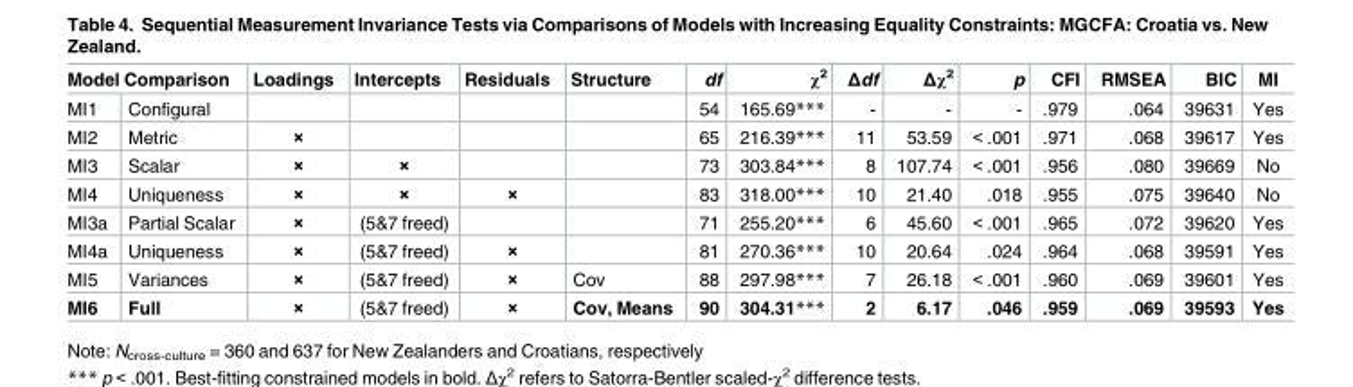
<table><thead><tr><td colspan="2">Model Comparison</td><td rowspan="2">Loadings</td><td rowspan="2">Intercepts</td><td rowspan="2">Residuals</td><td rowspan="2">Structure</td><td rowspan="2">df 54</td><td rowspan="2">χ<sup>2</sup> 165.69***</td><td rowspan="2">Δdf -</td><td rowspan="2">Δχ<sup>2</sup> -</td><td rowspan="2">p -</td><td rowspan="2">CFI .979</td><td rowspan="2">RMSEA .064</td><td rowspan="2">BIC 39631</td><td rowspan="2">MI Yes</td></tr><tr><td>MI1</td><td>Configural</td></tr></thead><tbody><tr><td>MI2</td><td>Metric</td><td>×</td><td></td><td></td><td></td><td>65</td><td>216.39***</td><td>11</td><td>53.59</td><td>&lt; .001</td><td>.971</td><td>.068</td><td>39617</td><td>Yes</td></tr><tr><td>MI3</td><td>Scalar</td><td>×</td><td>×</td><td></td><td></td><td>73</td><td>303.84***</td><td>8</td><td>107.74</td><td>&lt; .001</td><td>.956</td><td>.080</td><td>39669</td><td>No</td></tr><tr><td>MI4</td><td>Uniqueness</td><td>×</td><td>×</td><td>×</td><td></td><td>83</td><td>318.00***</td><td>10</td><td>21.40</td><td>.018</td><td>.955</td><td>.075</td><td>39640</td><td>No</td></tr><tr><td>MI3a</td><td>Partial Scalar</td><td>×</td><td>(5&amp;7 freed)</td><td></td><td></td><td>71</td><td>255.20***</td><td>6</td><td>45.60</td><td>&lt; .001</td><td>.965</td><td>.072</td><td>39620</td><td>Yes</td></tr><tr><td>MI4a</td><td>Uniqueness</td><td>×</td><td>(5&amp;7 freed)</td><td>×</td><td></td><td>81</td><td>270.36***</td><td>10</td><td>20.64</td><td>.024</td><td>.964</td><td>.068</td><td>39591</td><td>Yes</td></tr><tr><td>MI5</td><td>Variances</td><td>×</td><td>(5&amp;7 freed)</td><td>×</td><td>Cov</td><td>88</td><td>297.98***</td><td>7</td><td>26.18</td><td>&lt; .001</td><td>.960</td><td>.069</td><td>39601</td><td>Yes</td></tr><tr><td>MI6</td><td>Full</td><td>×</td><td>(5&amp;7 freed)</td><td>×</td><td>Cov, Means</td><td>90</td><td>304.31***</td><td>2</td><td>6.17</td><td>.046</td><td>.959</td><td>.069</td><td>39593</td><td>Yes</td></tr></tbody></table>